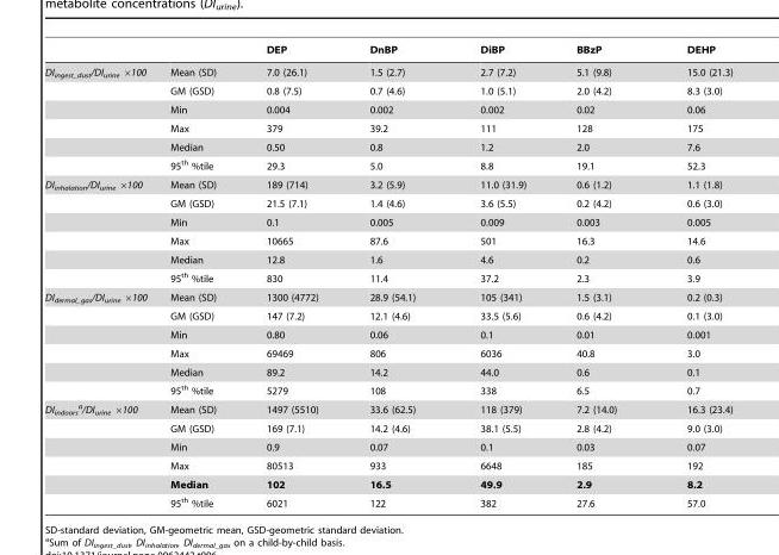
<table><thead><tr><td></td><td></td><td>DEP</td><td>DnBP</td><td>DiBP</td><td>BBzP</td><td>DEHP</td></tr></thead><tbody><tr><td rowspan="6">DI<sub>ingest_dust</sub>/DI<sub>urine</sub> ×100</td><td>Mean (SD)</td><td>7.0 (26.1)</td><td>1.5 (2.7)</td><td>2.7 (7.2)</td><td>5.1 (9.8)</td><td>15.0 (21.3)</td></tr><tr><td>GM (GSD)</td><td>0.8 (7.5)</td><td>0.7 (4.6)</td><td>1.0 (5.1)</td><td>2.0 (4.2)</td><td>8.3 (3.0)</td></tr><tr><td>Min</td><td>0.004</td><td>0.002</td><td>0.002</td><td>0.02</td><td>0.06</td></tr><tr><td>Max</td><td>379</td><td>39.2</td><td>111</td><td>128</td><td>175</td></tr><tr><td>Median</td><td>0.50</td><td>0.8</td><td>1.2</td><td>2.0</td><td>7.6</td></tr><tr><td>95<sup>th</sup> %tile</td><td>29.3</td><td>5.0</td><td>8.8</td><td>19.1</td><td>52.3</td></tr><tr><td rowspan="6">DI<sub>inhalation</sub>/DI<sub>urine</sub> ×100</td><td>Mean (SD)</td><td>189 (714)</td><td>3.2 (5.9)</td><td>11.0 (31.9)</td><td>0.6 (1.2)</td><td>1.1 (1.8)</td></tr><tr><td>GM (GSD)</td><td>21.5 (7.1)</td><td>1.4 (4.6)</td><td>3.6 (5.5)</td><td>0.2 (4.2)</td><td>0.6 (3.0)</td></tr><tr><td>Min</td><td>0.1</td><td>0.005</td><td>0.009</td><td>0.003</td><td>0.005</td></tr><tr><td>Max</td><td>10665</td><td>87.6</td><td>501</td><td>16.3</td><td>14.6</td></tr><tr><td>Median</td><td>12.8</td><td>1.6</td><td>4.6</td><td>0.2</td><td>0.6</td></tr><tr><td>95<sup>th</sup> %tile</td><td>830</td><td>11.4</td><td>37.2</td><td>2.3</td><td>3.9</td></tr><tr><td rowspan="6">DI<sub>dermal_gas</sub>/DI<sub>urine</sub> ×100</td><td>Mean (SD)</td><td>1300 (4772)</td><td>28.9 (54.1)</td><td>105 (341)</td><td>1.5 (3.1)</td><td>0.2 (0.3)</td></tr><tr><td>GM (GSD)</td><td>147 (7.2)</td><td>12.1 (4.6)</td><td>33.5 (5.6)</td><td>0.6 (4.2)</td><td>0.1 (3.0)</td></tr><tr><td>Min</td><td>0.80</td><td>0.06</td><td>0.1</td><td>0.01</td><td>0.001</td></tr><tr><td>Max</td><td>69469</td><td>806</td><td>6036</td><td>40.8</td><td>3.0</td></tr><tr><td>Median</td><td>89.2</td><td>14.2</td><td>44.0</td><td>0.6</td><td>0.1</td></tr><tr><td>95<sup>th</sup> %tile</td><td>5279</td><td>108</td><td>338</td><td>6.5</td><td>0.7</td></tr><tr><td rowspan="6">DI<sub>indoors</sub> a/DI<sub>urine</sub> ×100</td><td>Mean (SD)</td><td>1497 (5510)</td><td>33.6 (62.5)</td><td>118 (379)</td><td>7.2 (14.0)</td><td>16.3 (23.4)</td></tr><tr><td>GM (GSD)</td><td>169 (7.1)</td><td>14.2 (4.6)</td><td>38.1 (5.5)</td><td>2.8 (4.2)</td><td>9.0 (3.0)</td></tr><tr><td>Min</td><td>0.9</td><td>0.07</td><td>0.1</td><td>0.03</td><td>0.07</td></tr><tr><td>Max</td><td>80513</td><td>933</td><td>6648</td><td>185</td><td>192</td></tr><tr><td>Median</td><td>102</td><td>16.5</td><td>49.9</td><td>2.9</td><td>8.2</td></tr><tr><td>95<sup>th</sup> %tile</td><td>6021</td><td>122</td><td>382</td><td>27.6</td><td>57.0</td></tr></tbody></table>